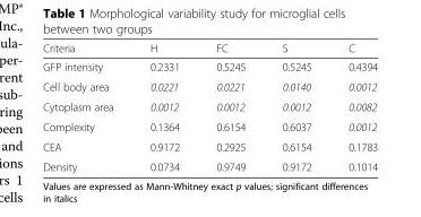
<table><thead><tr><td>Criteria</td><td>H</td><td>FC</td><td>S</td><td>C</td></tr></thead><tbody><tr><td>GFP intensity</td><td>0.2331</td><td>0.5245</td><td>0.5245</td><td>0.4394</td></tr><tr><td>Cell body area</td><td>0.0221</td><td>0.0221</td><td>0.0140</td><td>0.0012</td></tr><tr><td>Cytoplasm area</td><td>0.0012</td><td>0.0012</td><td>0.0012</td><td>0.0082</td></tr><tr><td>Complexity</td><td>0.1364</td><td>0.6154</td><td>0.6037</td><td>0.0012</td></tr><tr><td>CEA</td><td>0.9172</td><td>0.2925</td><td>0.6154</td><td>0.1783</td></tr><tr><td>Density</td><td>0.0734</td><td>0.9749</td><td>0.9172</td><td>0.1014</td></tr></tbody></table>